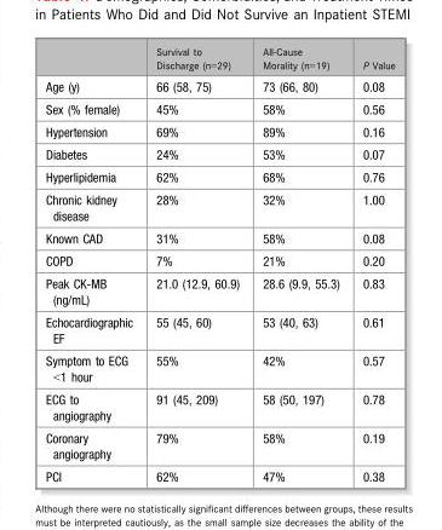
<table><thead><tr><td></td><td>Survival to Discharge (n=29)</td><td>All-Cause Morality (n=19)</td><td>P Value</td></tr></thead><tbody><tr><td>Age (y)</td><td>66 (58, 75)</td><td>73 (66, 80)</td><td>0.08</td></tr><tr><td>Sex (% female)</td><td>45%</td><td>58%</td><td>0.56</td></tr><tr><td>Hypertension</td><td>69%</td><td>89%</td><td>0.16</td></tr><tr><td>Diabetes</td><td>24%</td><td>53%</td><td>0.07</td></tr><tr><td>Hyperlipidemia</td><td>62%</td><td>68%</td><td>0.76</td></tr><tr><td>Chronic kidney disease</td><td>28%</td><td>32%</td><td>1.00</td></tr><tr><td>Known CAD</td><td>31%</td><td>58%</td><td>0.08</td></tr><tr><td>COPD</td><td>7%</td><td>21%</td><td>0.20</td></tr><tr><td>Peak CK-MB (ng/mL)</td><td>21.0 (12.9, 60.9)</td><td>28.6 (9.9, 55.3)</td><td>0.83</td></tr><tr><td>Echocardiographic EF</td><td>55 (45, 60)</td><td>53 (40, 63)</td><td>0.61</td></tr><tr><td>Symptom to ECG &lt;1 hour</td><td>55%</td><td>42%</td><td>0.57</td></tr><tr><td>ECG to angiography</td><td>91 (45, 209)</td><td>58 (50, 197)</td><td>0.78</td></tr><tr><td>Coronary angiography</td><td>79%</td><td>58%</td><td>0.19</td></tr><tr><td>PCI</td><td>62%</td><td>47%</td><td>0.38</td></tr></tbody></table>